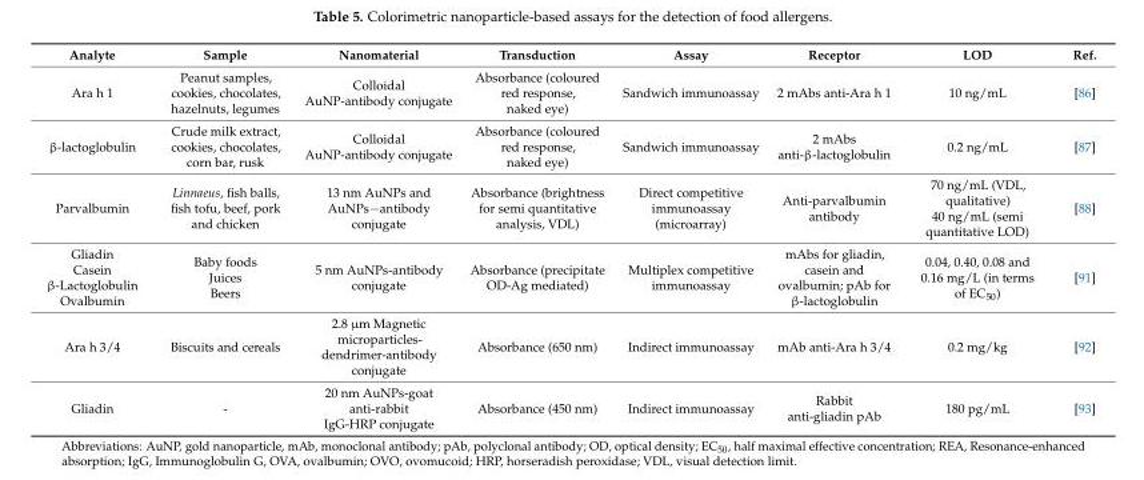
<table><thead><tr><td>Analyte</td><td>Sample</td><td>Nanomaterial</td><td>Transduction</td><td>Assay</td><td>Receptor</td><td>LOD</td><td>Ref.</td></tr></thead><tbody><tr><td>Ara h 1</td><td>Peanut samples, cookies, chocolates, hazelnuts, legumes</td><td>Colloidal AuNP-antibody conjugate</td><td>Absorbance (coloured red response, naked eye)</td><td>Sandwich immunoassay</td><td>2 mAbs anti-Ara h 1</td><td>10 ng/mL</td><td>[86]</td></tr><tr><td>β-lactoglobulin</td><td>Crude milk extract, cookies, chocolates, corn bar, rusk</td><td>Colloidal AuNP-antibody conjugate</td><td>Absorbance (coloured red response, naked eye)</td><td>Sandwich immunoassay</td><td>2 mAbs anti-β-lactoglobulin</td><td>0.2 ng/mL</td><td>[87]</td></tr><tr><td>Parvalbumin</td><td>Linnaeus, fish balls, fish tofu, beef, pork and chicken</td><td>13 nm AuNPs and AuNPs−antibody conjugate</td><td>Absorbance (brightness for semi quantitative analysis, VDL)</td><td>Direct competitive immunoassay (microarray)</td><td>Anti-parvalbumin antibody</td><td>70 ng/mL (VDL, qualitative) 40 ng/mL (semi quantitative LOD)</td><td>[88]</td></tr><tr><td>Gliadin Casein β-Lactoglobulin Ovalbumin</td><td>Baby foods Juices Beers</td><td>5 nm AuNPs-antibody conjugate</td><td>Absorbance (precipitate OD-Ag mediated)</td><td>Multiplex competitive immunoassay</td><td>mAbs for gliadin, casein and ovalbumin; pAb for β-lactoglobulin</td><td>0.04, 0.40, 0.08 and 0.16 mg/L (in terms of EC<sub>50</sub>)</td><td>[91]</td></tr><tr><td>Ara h 3/4</td><td>Biscuits and cereals</td><td>2.8 µm Magnetic microparticles- dendrimer-antibody conjugate</td><td>Absorbance (650 nm)</td><td>Indirect immunoassay</td><td>mAb anti-Ara h 3/4</td><td>0.2 mg/kg</td><td>[92]</td></tr><tr><td>Gliadin</td><td>-</td><td>20 nm AuNPs-goat anti-rabbit IgG-HRP conjugate</td><td>Absorbance (450 nm)</td><td>Indirect immunoassay</td><td>Rabbit anti-gliadin pAb</td><td>180 pg/mL</td><td>[93]</td></tr></tbody></table>